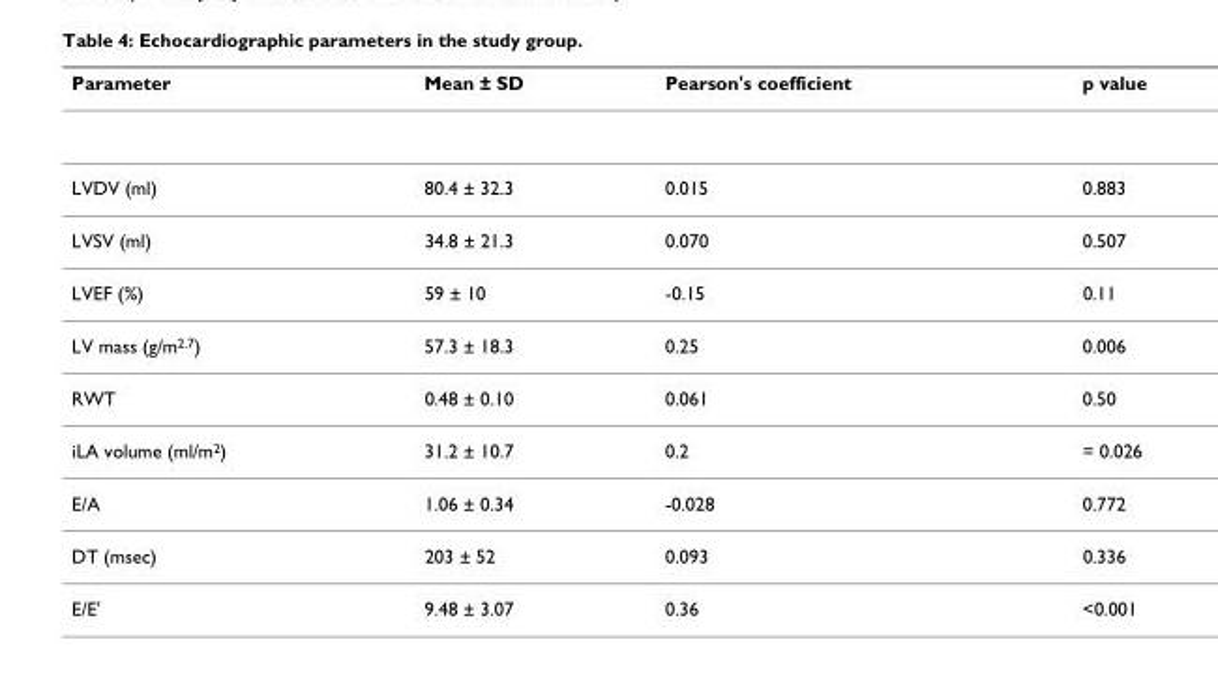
<table><thead><tr><td>Parameter</td><td>Mean ± SD</td><td>Pearson&#x27;s coefficient</td><td>p value</td></tr></thead><tbody><tr><td>LVDV (ml)</td><td>80.4 ± 32.3</td><td>0.015</td><td>0.883</td></tr><tr><td>LVSV (ml)</td><td>34.8 ± 21.3</td><td>0.070</td><td>0.507</td></tr><tr><td>LVEF (%)</td><td>59 ± 10</td><td>-0.15</td><td>0.11</td></tr><tr><td>LV mass (g/m<sup>2.7</sup>)</td><td>57.3 ± 18.3</td><td>0.25</td><td>0.006</td></tr><tr><td>RWT</td><td>0.48 ± 0.10</td><td>0.061</td><td>0.50</td></tr><tr><td>iLA volume (ml/m<sup>2</sup>)</td><td>31.2 ± 10.7</td><td>0.2</td><td>= 0.026</td></tr><tr><td>E/A</td><td>1.06 ± 0.34</td><td>-0.028</td><td>0.772</td></tr><tr><td>DT (msec)</td><td>203 ± 52</td><td>0.093</td><td>0.336</td></tr><tr><td>E/E&#x27;</td><td>9.48 ± 3.07</td><td>0.36</td><td>&lt;0.001</td></tr></tbody></table>